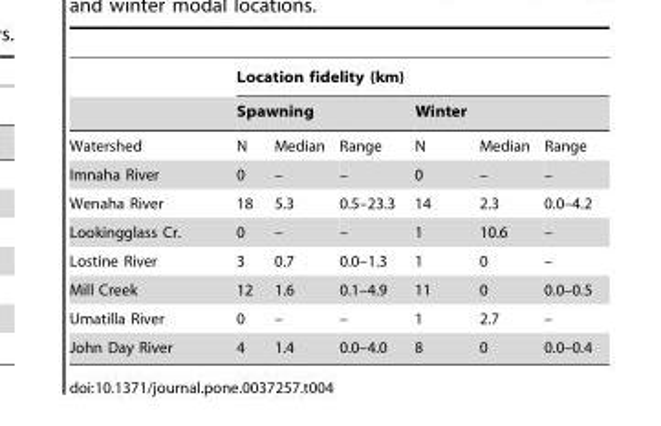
<table><thead><tr><td rowspan="3">Watershed</td><td colspan="6">Location fidelity (km)</td></tr><tr><td colspan="3">Spawning</td><td colspan="3">Winter</td></tr><tr><td>N</td><td>Median</td><td>Range</td><td>N</td><td>Median</td><td>Range</td></tr></thead><tbody><tr><td>Imnaha River</td><td>0</td><td>–</td><td>–</td><td>0</td><td>–</td><td>–</td></tr><tr><td>Wenaha River</td><td>18</td><td>5.3</td><td>0.5–23.3</td><td>14</td><td>2.3</td><td>0.0–4.2</td></tr><tr><td>Lookingglass Cr.</td><td>0</td><td>–</td><td>–</td><td>1</td><td>10.6</td><td>–</td></tr><tr><td>Lostine River</td><td>3</td><td>0.7</td><td>0.0–1.3</td><td>1</td><td>0</td><td>–</td></tr><tr><td>Mill Creek</td><td>12</td><td>1.6</td><td>0.1–4.9</td><td>11</td><td>0</td><td>0.0–0.5</td></tr><tr><td>Umatilla River</td><td>0</td><td>–</td><td>–</td><td>1</td><td>2.7</td><td>–</td></tr><tr><td>John Day River</td><td>4</td><td>1.4</td><td>0.0–4.0</td><td>8</td><td>0</td><td>0.0–0.4</td></tr></tbody></table>